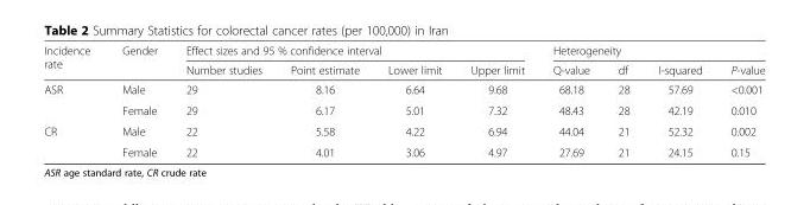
<table><thead><tr><td rowspan="2">Incidence rate</td><td rowspan="2">Gender</td><td colspan="4">Effect sizes and 95 % confidence interval</td><td colspan="4">Heterogeneity</td></tr><tr><td>Number studies</td><td>Point estimate</td><td>Lower limit</td><td>Upper limit</td><td>Q-value</td><td>df</td><td>I-squared</td><td>P-value</td></tr></thead><tbody><tr><td rowspan="2">ASR</td><td>Male</td><td>29</td><td>8.16</td><td>6.64</td><td>9.68</td><td>68.18</td><td>28</td><td>57.69</td><td>&lt;0.001</td></tr><tr><td>Female</td><td>29</td><td>6.17</td><td>5.01</td><td>7.32</td><td>48.43</td><td>28</td><td>42.19</td><td>0.010</td></tr><tr><td rowspan="2">CR</td><td>Male</td><td>22</td><td>5.58</td><td>4.22</td><td>6.94</td><td>44.04</td><td>21</td><td>52.32</td><td>0.002</td></tr><tr><td>Female</td><td>22</td><td>4.01</td><td>3.06</td><td>4.97</td><td>27.69</td><td>21</td><td>24.15</td><td>0.15</td></tr></tbody></table>